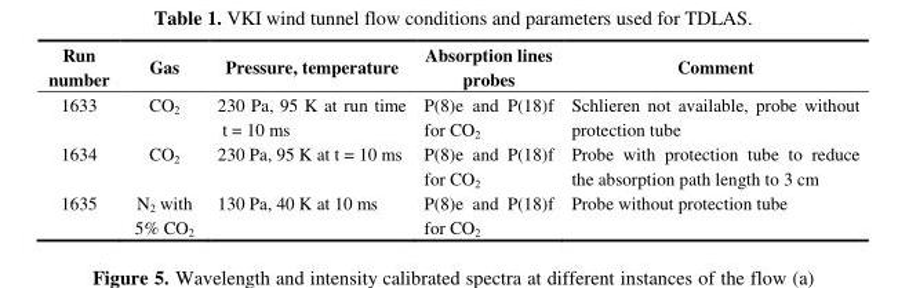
<table><thead><tr><td>Run number</td><td>Gas</td><td>Pressure, temperature</td><td>Absorption lines probes</td><td>Comment</td></tr></thead><tbody><tr><td>1633</td><td>CO<sub>2</sub></td><td>230 Pa, 95 K at run time t = 10 ms</td><td>P(8)e and P(18)f for CO<sub>2</sub></td><td>Schlieren not available, probe without protection tube</td></tr><tr><td>1634</td><td>CO<sub>2</sub></td><td>230 Pa, 95 K at t = 10 ms</td><td>P(8)e and P(18)f for CO<sub>2</sub></td><td>Probe with protection tube to reduce the absorption path length to 3 cm</td></tr><tr><td>1635</td><td>N<sub>2</sub> with 5% CO<sub>2</sub></td><td>130 Pa, 40 K at 10 ms</td><td>P(8)e and P(18)f for CO<sub>2</sub></td><td>Probe without protection tube</td></tr></tbody></table>